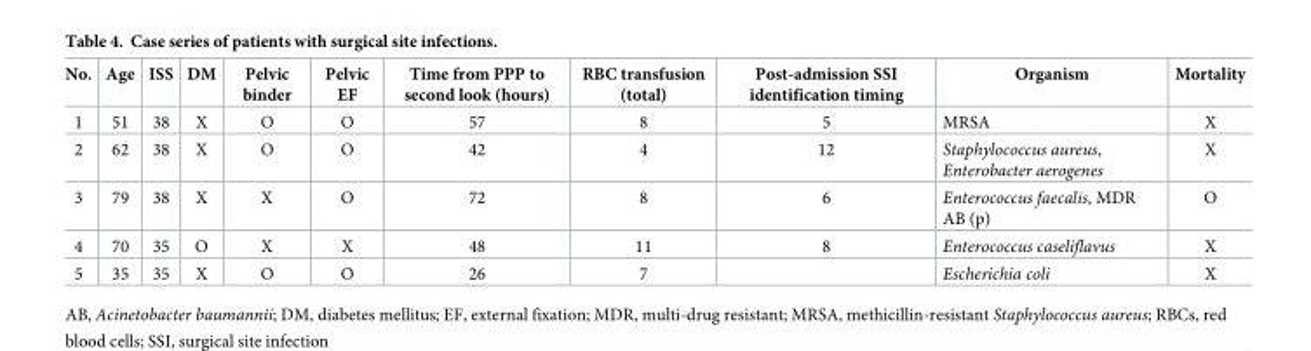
<table><thead><tr><td>No.</td><td>Age</td><td>ISS</td><td>DM</td><td>Pelvic binder</td><td>Pelvic EF</td><td>Time from PPP to second look (hours)</td><td>RBC transfusion (total)</td><td>Post-admission SSI identification timing</td><td>Organism</td><td>Mortality</td></tr></thead><tbody><tr><td>1</td><td>51</td><td>38</td><td>X</td><td>O</td><td>O</td><td>57</td><td>8</td><td>5</td><td>MRSA</td><td>X</td></tr><tr><td>2</td><td>62</td><td>38</td><td>X</td><td>O</td><td>O</td><td>42</td><td>4</td><td>12</td><td>Staphylococcus aureus, Enterobacter aerogenes</td><td>X</td></tr><tr><td>3</td><td>79</td><td>38</td><td>X</td><td>X</td><td>O</td><td>72</td><td>8</td><td>6</td><td>Enterococcus faecalis, MDR AB (p)</td><td>O</td></tr><tr><td>4</td><td>70</td><td>35</td><td>O</td><td>X</td><td>X</td><td>48</td><td>11</td><td>8</td><td>Enterococcus caseliflavus</td><td>X</td></tr><tr><td>5</td><td>35</td><td>35</td><td>X</td><td>O</td><td>O</td><td>26</td><td>7</td><td></td><td>Escherichia coli</td><td>X</td></tr></tbody></table>